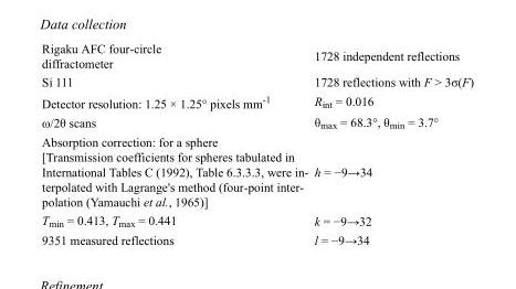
<table><tbody><tr><td>Rigaku AFC four-circle diffractometer</td><td>1728 independent reflections</td></tr><tr><td>Si 111</td><td>1728 reflections with F &gt; 3σ(F)</td></tr><tr><td>Detector resolution: 1.25 × 1.25° pixels mm<sup>-1</sup></td><td>R<sub>int</sub> = 0.016</td></tr><tr><td>ω/2θ scans</td><td>θ<sub>max</sub> = 68.3°, θ<sub>min</sub> = 3.7°</td></tr><tr><td>Absorption correction: for a sphere [Transmission coefficients for spheres tabulated in International Tables C (1992), Table 6.3.3.3, were in- terpolated with Lagrange&#x27;s method (four-point inter- polation (Yamauchi et al., 1965)]</td><td>h = −9→34</td></tr><tr><td>T<sub>min</sub> = 0.413, T<sub>max</sub> = 0.441</td><td>k = −9→32</td></tr><tr><td>9351 measured reflections</td><td>l = −9→34</td></tr></tbody></table>